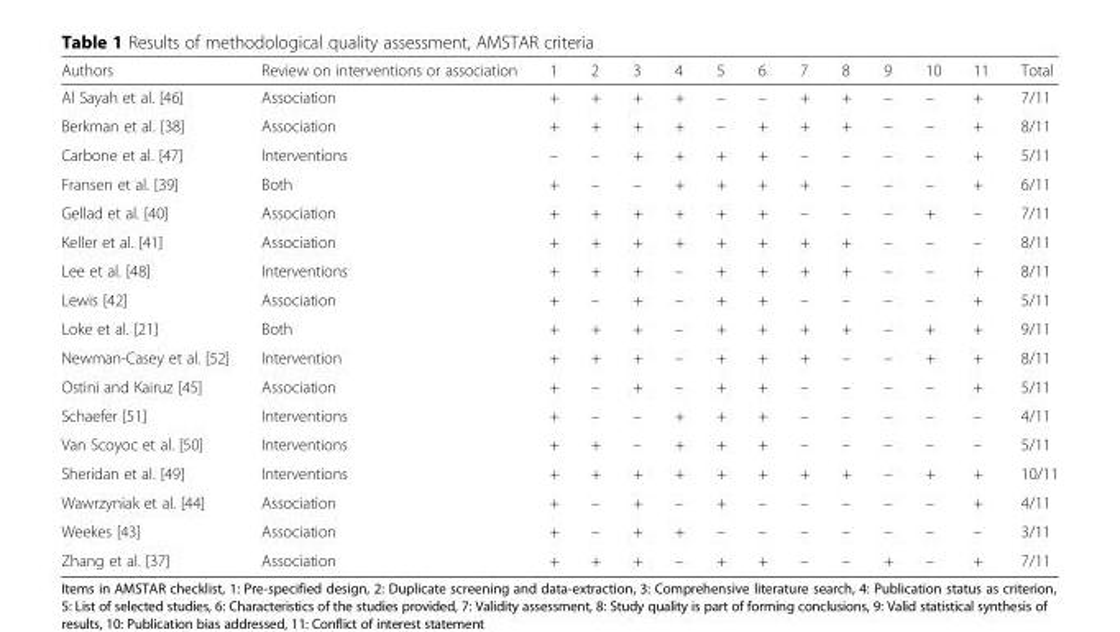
<table><thead><tr><td>Authors</td><td>Review on interventions or association</td><td>1</td><td>2</td><td>3</td><td>4</td><td>5</td><td>6</td><td>7</td><td>8</td><td>9</td><td>10</td><td>11</td><td>Total</td></tr></thead><tbody><tr><td>Al Sayah et al. [46]</td><td>Association</td><td>+</td><td>+</td><td>+</td><td>+</td><td>–</td><td>–</td><td>+</td><td>+</td><td>–</td><td>–</td><td>+</td><td>7/11</td></tr><tr><td>Berkman et al. [38]</td><td>Association</td><td>+</td><td>+</td><td>+</td><td>+</td><td>–</td><td>+</td><td>+</td><td>+</td><td>–</td><td>–</td><td>+</td><td>8/11</td></tr><tr><td>Carbone et al. [47]</td><td>Interventions</td><td>–</td><td>–</td><td>+</td><td>+</td><td>+</td><td>+</td><td>–</td><td>–</td><td>–</td><td>–</td><td>+</td><td>5/11</td></tr><tr><td>Fransen et al. [39]</td><td>Both</td><td>+</td><td>–</td><td>–</td><td>+</td><td>+</td><td>+</td><td>+</td><td>–</td><td>–</td><td>–</td><td>+</td><td>6/11</td></tr><tr><td>Gellad et al. [40]</td><td>Association</td><td>+</td><td>+</td><td>+</td><td>+</td><td>+</td><td>+</td><td>–</td><td>–</td><td>–</td><td>+</td><td>–</td><td>7/11</td></tr><tr><td>Keller et al. [41]</td><td>Association</td><td>+</td><td>+</td><td>+</td><td>+</td><td>+</td><td>+</td><td>+</td><td>+</td><td>–</td><td>–</td><td>–</td><td>8/11</td></tr><tr><td>Lee et al. [48]</td><td>Interventions</td><td>+</td><td>+</td><td>+</td><td>–</td><td>+</td><td>+</td><td>+</td><td>+</td><td>–</td><td>–</td><td>+</td><td>8/11</td></tr><tr><td>Lewis [42]</td><td>Association</td><td>+</td><td>–</td><td>+</td><td>–</td><td>+</td><td>+</td><td>–</td><td>–</td><td>–</td><td>–</td><td>+</td><td>5/11</td></tr><tr><td>Loke et al. [21]</td><td>Both</td><td>+</td><td>+</td><td>+</td><td>–</td><td>+</td><td>+</td><td>+</td><td>+</td><td>–</td><td>+</td><td>+</td><td>9/11</td></tr><tr><td>Newman-Casey et al. [52]</td><td>Intervention</td><td>+</td><td>+</td><td>+</td><td>–</td><td>+</td><td>+</td><td>+</td><td>–</td><td>–</td><td>+</td><td>+</td><td>8/11</td></tr><tr><td>Ostini and Kairuz [45]</td><td>Association</td><td>+</td><td>–</td><td>+</td><td>–</td><td>+</td><td>+</td><td>–</td><td>–</td><td>–</td><td>–</td><td>+</td><td>5/11</td></tr><tr><td>Schaefer [51]</td><td>Interventions</td><td>+</td><td>–</td><td>–</td><td>+</td><td>+</td><td>+</td><td>–</td><td>–</td><td>–</td><td>–</td><td>–</td><td>4/11</td></tr><tr><td>Van Scoyoc et al. [50]</td><td>Interventions</td><td>+</td><td>+</td><td>–</td><td>+</td><td>+</td><td>+</td><td>–</td><td>–</td><td>–</td><td>–</td><td>–</td><td>5/11</td></tr><tr><td>Sheridan et al. [49]</td><td>Interventions</td><td>+</td><td>+</td><td>+</td><td>+</td><td>+</td><td>+</td><td>+</td><td>+</td><td>–</td><td>+</td><td>+</td><td>10/11</td></tr><tr><td>Wawrzyniak et al. [44]</td><td>Association</td><td>+</td><td>–</td><td>+</td><td>–</td><td>+</td><td>–</td><td>–</td><td>–</td><td>–</td><td>–</td><td>+</td><td>4/11</td></tr><tr><td>Weekes [43]</td><td>Association</td><td>+</td><td>–</td><td>+</td><td>+</td><td>–</td><td>–</td><td>–</td><td>–</td><td>–</td><td>–</td><td>–</td><td>3/11</td></tr><tr><td>Zhang et al. [37]</td><td>Association</td><td>+</td><td>+</td><td>+</td><td>–</td><td>+</td><td>+</td><td>–</td><td>–</td><td>+</td><td>–</td><td>+</td><td>7/11</td></tr></tbody></table>